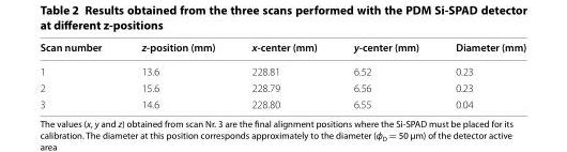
<table><thead><tr><td>Scan number</td><td>z‑position (mm)</td><td>x‑center (mm)</td><td>y‑center (mm)</td><td>Diameter (mm)</td></tr></thead><tbody><tr><td>1</td><td>13.6</td><td>228.81</td><td>6.52</td><td>0.23</td></tr><tr><td>2</td><td>15.6</td><td>228.79</td><td>6.56</td><td>0.23</td></tr><tr><td>3</td><td>14.6</td><td>228.80</td><td>6.55</td><td>0.04</td></tr></tbody></table>